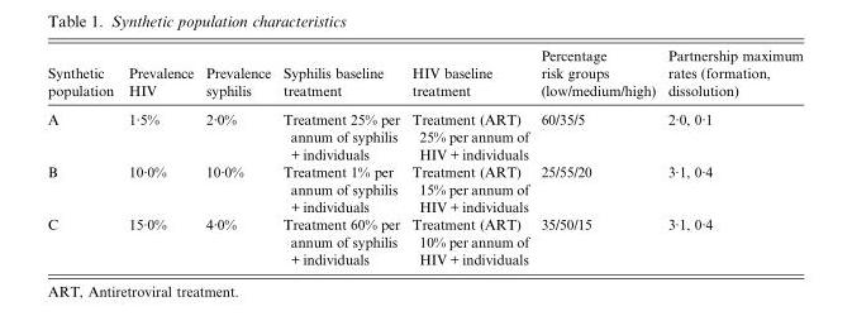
<table><thead><tr><td>Synthetic population</td><td>Prevalence HIV</td><td>Prevalence syphilis</td><td>Syphilis baseline treatment</td><td>HIV baseline treatment</td><td>Percentage risk groups (low/medium/high)</td><td>Partnership maximum rates (formation, dissolution)</td></tr></thead><tbody><tr><td>A</td><td>1·5%</td><td>2·0%</td><td>Treatment 25% per annum of syphilis + individuals</td><td>Treatment (ART) 25% per annum of HIV + individuals</td><td>60/35/5</td><td>2·0, 0·1</td></tr><tr><td>B</td><td>10·0%</td><td>10·0%</td><td>Treatment 1% per annum of syphilis + individuals</td><td>Treatment (ART) 15% per annum of HIV + individuals</td><td>25/55/20</td><td>3·1, 0·4</td></tr><tr><td>C</td><td>15·0%</td><td>4·0%</td><td>Treatment 60% per annum of syphilis + individuals</td><td>Treatment (ART) 10% per annum of HIV + individuals</td><td>35/50/15</td><td>3·1, 0·4</td></tr></tbody></table>